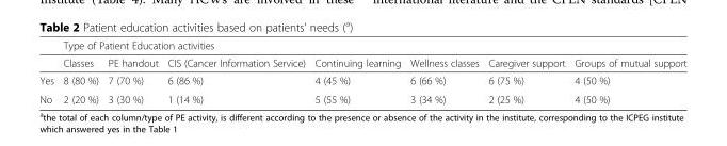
<table><thead><tr><td rowspan="2"></td><td colspan="3">Type of Patient Education activities</td><td rowspan="2">Continuing learning</td><td rowspan="2">Wellness classes</td><td rowspan="2">Caregiver support</td><td rowspan="2">Groups of mutual support</td></tr><tr><td>Classes</td><td>PE handout</td><td>CIS (Cancer Information Service)</td></tr></thead><tbody><tr><td>Yes</td><td>8 (80 %)</td><td>7 (70 %)</td><td>6 (86 %)</td><td>4 (45 %)</td><td>6 (66 %)</td><td>6 (75 %)</td><td>4 (50 %)</td></tr><tr><td>No</td><td>2 (20 %)</td><td>3 (30 %)</td><td>1 (14 %)</td><td>5 (55 %)</td><td>3 (34 %)</td><td>2 (25 %)</td><td>4 (50 %)</td></tr></tbody></table>